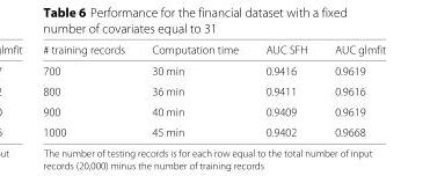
<table><thead><tr><td># training records</td><td>Computation time</td><td>AUC SFH</td><td>AUC glmfit</td></tr></thead><tbody><tr><td>700</td><td>30 min</td><td>0.9416</td><td>0.9619</td></tr><tr><td>800</td><td>36 min</td><td>0.9411</td><td>0.9616</td></tr><tr><td>900</td><td>40 min</td><td>0.9409</td><td>0.9619</td></tr><tr><td>1000</td><td>45 min</td><td>0.9402</td><td>0.9668</td></tr></tbody></table>